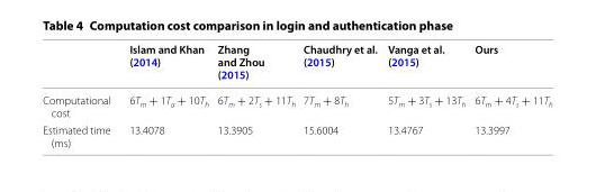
<table><thead><tr><td></td><td>Islam and Khan (2014)</td><td>Zhang and Zhou (2015)</td><td>Chaudhry et al. (2015)</td><td>Vanga et al. (2015)</td><td>Ours</td></tr></thead><tbody><tr><td>Computational cost</td><td>6T<sub>m</sub> + 1T<sub>a</sub> + 10T<sub>h</sub></td><td>6T<sub>m</sub> + 2T<sub>s</sub> + 11T<sub>h</sub></td><td>7T<sub>m</sub> + 8T<sub>h</sub></td><td>5T<sub>m</sub> + 3T<sub>s</sub> + 13T<sub>h</sub></td><td>6T<sub>m</sub> + 4T<sub>s</sub> + 11T<sub>h</sub></td></tr><tr><td>Estimated time (ms)</td><td>13.4078</td><td>13.3905</td><td>15.6004</td><td>13.4767</td><td>13.3997</td></tr></tbody></table>